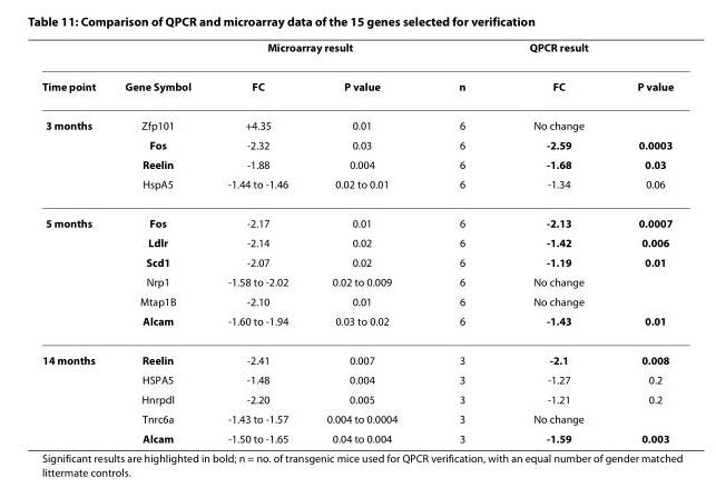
<table><thead><tr><td rowspan="2">Time point</td><td rowspan="2">Gene Symbol</td><td colspan="2">Microarray result</td><td colspan="3">QPCR result</td></tr><tr><td>FC</td><td>P value</td><td>n</td><td>FC</td><td>P value</td></tr></thead><tbody><tr><td rowspan="4">3 months</td><td>Zfp101</td><td>+4.35</td><td>0.01</td><td>6</td><td>No change</td><td></td></tr><tr><td>Fos</td><td>-2.32</td><td>0.03</td><td>6</td><td>-2.59</td><td>0.0003</td></tr><tr><td>Reelin</td><td>-1.88</td><td>0.004</td><td>6</td><td>-1.68</td><td>0.03</td></tr><tr><td>HspA5</td><td>-1.44 to -1.46</td><td>0.02 to 0.01</td><td>6</td><td>-1.34</td><td>0.06</td></tr><tr><td rowspan="6">5 months</td><td>Fos</td><td>-2.17</td><td>0.01</td><td>6</td><td>-2.13</td><td>0.0007</td></tr><tr><td>Ldlr</td><td>-2.14</td><td>0.02</td><td>6</td><td>-1.42</td><td>0.006</td></tr><tr><td>Scd1</td><td>-2.07</td><td>0.02</td><td>6</td><td>-1.19</td><td>0.01</td></tr><tr><td>Nrp1</td><td>-1.58 to -2.02</td><td>0.02 to 0.009</td><td>6</td><td>No change</td><td></td></tr><tr><td>Mtap1B</td><td>-2.10</td><td>0.01</td><td>6</td><td>No change</td><td></td></tr><tr><td>Alcam</td><td>-1.60 to -1.94</td><td>0.03 to 0.02</td><td>6</td><td>-1.43</td><td>0.01</td></tr><tr><td rowspan="5">14 months</td><td>Reelin</td><td>-2.41</td><td>0.007</td><td>3</td><td>-2.1</td><td>0.008</td></tr><tr><td>HSPA5</td><td>-1.48</td><td>0.004</td><td>3</td><td>-1.27</td><td>0.2</td></tr><tr><td>Hnrpdl</td><td>-2.20</td><td>0.005</td><td>3</td><td>-1.21</td><td>0.2</td></tr><tr><td>Tnrc6a</td><td>-1.43 to -1.57</td><td>0.004 to 0.0004</td><td>3</td><td>No change</td><td></td></tr><tr><td>Alcam</td><td>-1.50 to -1.65</td><td>0.04 to 0.004</td><td>3</td><td>-1.59</td><td>0.003</td></tr></tbody></table>